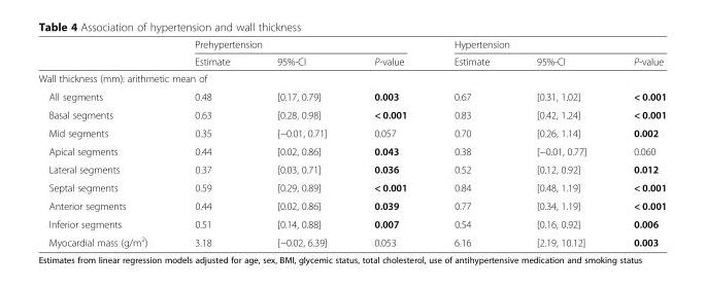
<table><thead><tr><td rowspan="2"></td><td colspan="3">Prehypertension</td><td colspan="3">Hypertension</td></tr><tr><td>Estimate</td><td>95%-CI</td><td>P-value</td><td>Estimate</td><td>95%-CI</td><td>P-value</td></tr></thead><tbody><tr><td colspan="7">Wall thickness (mm): arithmetic mean of</td></tr><tr><td>All segments</td><td>0.48</td><td>[0.17, 0.79]</td><td>0.003</td><td>0.67</td><td>[0.31, 1.02]</td><td>&lt; 0.001</td></tr><tr><td>Basal segments</td><td>0.63</td><td>[0.28, 0.98]</td><td>&lt; 0.001</td><td>0.83</td><td>[0.42, 1.24]</td><td>&lt; 0.001</td></tr><tr><td>Mid segments</td><td>0.35</td><td>[−0.01, 0.71]</td><td>0.057</td><td>0.70</td><td>[0.26, 1.14]</td><td>0.002</td></tr><tr><td>Apical segments</td><td>0.44</td><td>[0.02, 0.86]</td><td>0.043</td><td>0.38</td><td>[−0.01, 0.77]</td><td>0.060</td></tr><tr><td>Lateral segments</td><td>0.37</td><td>[0.03, 0.71]</td><td>0.036</td><td>0.52</td><td>[0.12, 0.92]</td><td>0.012</td></tr><tr><td>Septal segments</td><td>0.59</td><td>[0.29, 0.89]</td><td>&lt; 0.001</td><td>0.84</td><td>[0.48, 1.19]</td><td>&lt; 0.001</td></tr><tr><td>Anterior segments</td><td>0.44</td><td>[0.02, 0.86]</td><td>0.039</td><td>0.77</td><td>[0.34, 1.19]</td><td>&lt; 0.001</td></tr><tr><td>Inferior segments</td><td>0.51</td><td>[0.14, 0.88]</td><td>0.007</td><td>0.54</td><td>[0.16, 0.92]</td><td>0.006</td></tr><tr><td>Myocardial mass (g/m<sup>2</sup>)</td><td>3.18</td><td>[−0.02, 6.39]</td><td>0.053</td><td>6.16</td><td>[2.19, 10.12]</td><td>0.003</td></tr></tbody></table>